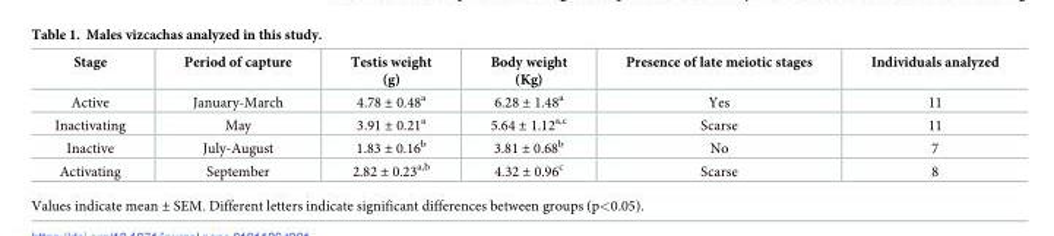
<table><thead><tr><td>Stage</td><td>Period of capture</td><td>Testis weight (g)</td><td>Body weight (Kg)</td><td>Presence of late meiotic stages</td><td>Individuals analyzed</td></tr></thead><tbody><tr><td>Active</td><td>January-March</td><td>4.78 ± 0.48<sup>a</sup></td><td>6.28 ± 1.48<sup>a</sup></td><td>Yes</td><td>11</td></tr><tr><td>Inactivating</td><td>May</td><td>3.91 ± 0.21<sup>a</sup></td><td>5.64 ± 1.12<sup>a,c</sup></td><td>Scarse</td><td>11</td></tr><tr><td>Inactive</td><td>July-August</td><td>1.83 ± 0.16<sup>b</sup></td><td>3.81 ± 0.68<sup>b</sup></td><td>No</td><td>7</td></tr><tr><td>Activating</td><td>September</td><td>2.82 ± 0.23<sup>a,b</sup></td><td>4.32 ± 0.96<sup>c</sup></td><td>Scarse</td><td>8</td></tr></tbody></table>